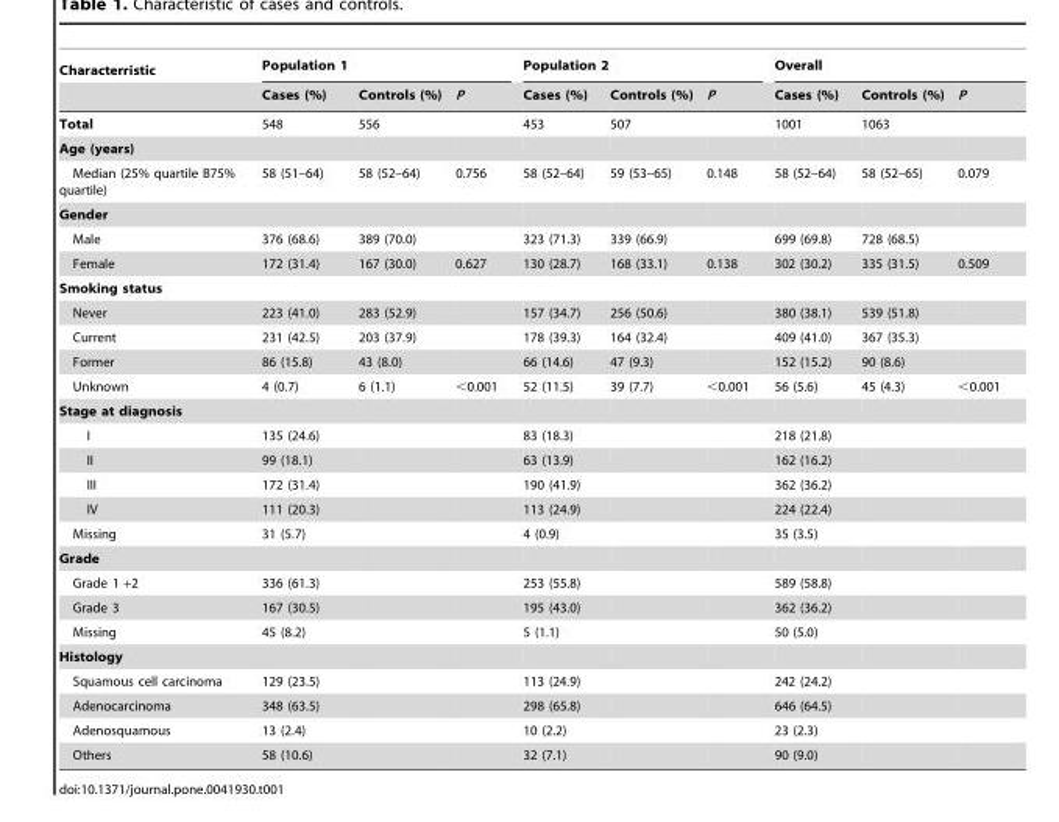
<table><thead><tr><td rowspan="2">Characterristic</td><td colspan="3">Population 1</td><td colspan="3">Population 2</td><td colspan="3">Overall</td></tr><tr><td>Cases (%)</td><td>Controls (%)</td><td>P</td><td>Cases (%)</td><td>Controls (%)</td><td>P</td><td>Cases (%)</td><td>Controls (%)</td><td>P</td></tr></thead><tbody><tr><td>Total</td><td>548</td><td>556</td><td></td><td>453</td><td>507</td><td></td><td>1001</td><td>1063</td><td></td></tr><tr><td colspan="10">Age (years)</td></tr><tr><td>Median (25% quartile B75% quartile)</td><td>58 (51–64)</td><td>58 (52–64)</td><td>0.756</td><td>58 (52–64)</td><td>59 (53–65)</td><td>0.148</td><td>58 (52–64)</td><td>58 (52–65)</td><td>0.079</td></tr><tr><td colspan="10">Gender</td></tr><tr><td>Male</td><td>376 (68.6)</td><td>389 (70.0)</td><td></td><td>323 (71.3)</td><td>339 (66.9)</td><td></td><td>699 (69.8)</td><td>728 (68.5)</td><td></td></tr><tr><td>Female</td><td>172 (31.4)</td><td>167 (30.0)</td><td>0.627</td><td>130 (28.7)</td><td>168 (33.1)</td><td>0.138</td><td>302 (30.2)</td><td>335 (31.5)</td><td>0.509</td></tr><tr><td colspan="10">Smoking status</td></tr><tr><td>Never</td><td>223 (41.0)</td><td>283 (52.9)</td><td></td><td>157 (34.7)</td><td>256 (50.6)</td><td></td><td>380 (38.1)</td><td>539 (51.8)</td><td></td></tr><tr><td>Current</td><td>231 (42.5)</td><td>203 (37.9)</td><td></td><td>178 (39.3)</td><td>164 (32.4)</td><td></td><td>409 (41.0)</td><td>367 (35.3)</td><td></td></tr><tr><td>Former</td><td>86 (15.8)</td><td>43 (8.0)</td><td></td><td>66 (14.6)</td><td>47 (9.3)</td><td></td><td>152 (15.2)</td><td>90 (8.6)</td><td></td></tr><tr><td>Unknown</td><td>4 (0.7)</td><td>6 (1.1)</td><td>&lt;0.001</td><td>52 (11.5)</td><td>39 (7.7)</td><td>&lt;0.001</td><td>56 (5.6)</td><td>45 (4.3)</td><td>&lt;0.001</td></tr><tr><td colspan="10">Stage at diagnosis</td></tr><tr><td>I</td><td>135 (24.6)</td><td></td><td></td><td>83 (18.3)</td><td></td><td></td><td>218 (21.8)</td><td></td><td></td></tr><tr><td>II</td><td>99 (18.1)</td><td></td><td></td><td>63 (13.9)</td><td></td><td></td><td>162 (16.2)</td><td></td><td></td></tr><tr><td>III</td><td>172 (31.4)</td><td></td><td></td><td>190 (41.9)</td><td></td><td></td><td>362 (36.2)</td><td></td><td></td></tr><tr><td>IV</td><td>111 (20.3)</td><td></td><td></td><td>113 (24.9)</td><td></td><td></td><td>224 (22.4)</td><td></td><td></td></tr><tr><td>Missing</td><td>31 (5.7)</td><td></td><td></td><td>4 (0.9)</td><td></td><td></td><td>35 (3.5)</td><td></td><td></td></tr><tr><td colspan="10">Grade</td></tr><tr><td>Grade 1 +2</td><td>336 (61.3)</td><td></td><td></td><td>253 (55.8)</td><td></td><td></td><td>589 (58.8)</td><td></td><td></td></tr><tr><td>Grade 3</td><td>167 (30.5)</td><td></td><td></td><td>195 (43.0)</td><td></td><td></td><td>362 (36.2)</td><td></td><td></td></tr><tr><td>Missing</td><td>45 (8.2)</td><td></td><td></td><td>5 (1.1)</td><td></td><td></td><td>50 (5.0)</td><td></td><td></td></tr><tr><td colspan="10">Histology</td></tr><tr><td>Squamous cell carcinoma</td><td>129 (23.5)</td><td></td><td></td><td>113 (24.9)</td><td></td><td></td><td>242 (24.2)</td><td></td><td></td></tr><tr><td>Adenocarcinoma</td><td>348 (63.5)</td><td></td><td></td><td>298 (65.8)</td><td></td><td></td><td>646 (64.5)</td><td></td><td></td></tr><tr><td>Adenosquamous</td><td>13 (2.4)</td><td></td><td></td><td>10 (2.2)</td><td></td><td></td><td>23 (2.3)</td><td></td><td></td></tr><tr><td>Others</td><td>58 (10.6)</td><td></td><td></td><td>32 (7.1)</td><td></td><td></td><td>90 (9.0)</td><td></td><td></td></tr></tbody></table>